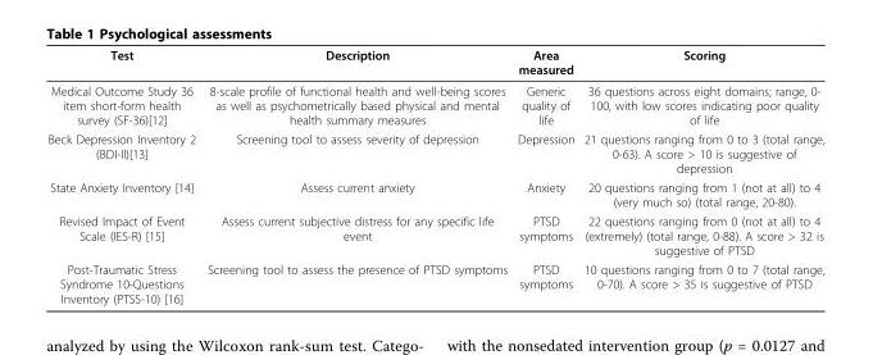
<table><thead><tr><td>Test</td><td>Description</td><td>Area measured</td><td>Scoring</td></tr></thead><tbody><tr><td>Medical Outcome Study 36 item short-form health survey (SF-36)[12]</td><td>8-scale profile of functional health and well-being scores as well as psychometrically based physical and mental health summary measures</td><td>Generic quality of life</td><td>36 questions across eight domains; range, 0- 100, with low scores indicating poor quality of life</td></tr><tr><td>Beck Depression Inventory 2 (BDI-II)[13]</td><td>Screening tool to assess severity of depression</td><td>Depression</td><td>21 questions ranging from 0 to 3 (total range, 0-63). A score &gt; 10 is suggestive of depression</td></tr><tr><td>State Anxiety Inventory [14]</td><td>Assess current anxiety</td><td>Anxiety</td><td>20 questions ranging from 1 (not at all) to 4 (very much so) (total range, 20-80).</td></tr><tr><td>Revised Impact of Event Scale (IES-R) [15]</td><td>Assess current subjective distress for any specific life event</td><td>PTSD symptoms</td><td>22 questions ranging from 0 (not at all) to 4 (extremely) (total range, 0-88). A score &gt; 32 is suggestive of PTSD</td></tr><tr><td>Post-Traumatic Stress Syndrome 10-Questions Inventory (PTSS-10) [16]</td><td>Screening tool to assess the presence of PTSD symptoms</td><td>PTSD symptoms</td><td>10 questions ranging from 0 to 7 (total range, 0-70). A score &gt; 35 is suggestive of PTSD</td></tr></tbody></table>